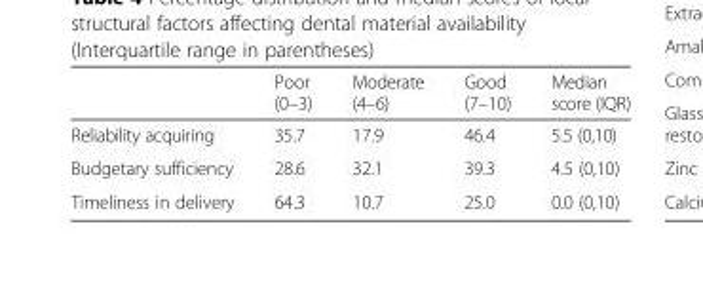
<table><thead><tr><td></td><td>Poor (0–3)</td><td>Moderate (4–6)</td><td>Good (7–10)</td><td>Median score (IQR)</td></tr></thead><tbody><tr><td>Reliability acquiring</td><td>35.7</td><td>17.9</td><td>46.4</td><td>5.5 (0,10)</td></tr><tr><td>Budgetary sufficiency</td><td>28.6</td><td>32.1</td><td>39.3</td><td>4.5 (0,10)</td></tr><tr><td>Timeliness in delivery</td><td>64.3</td><td>10.7</td><td>25.0</td><td>0.0 (0,10)</td></tr></tbody></table>